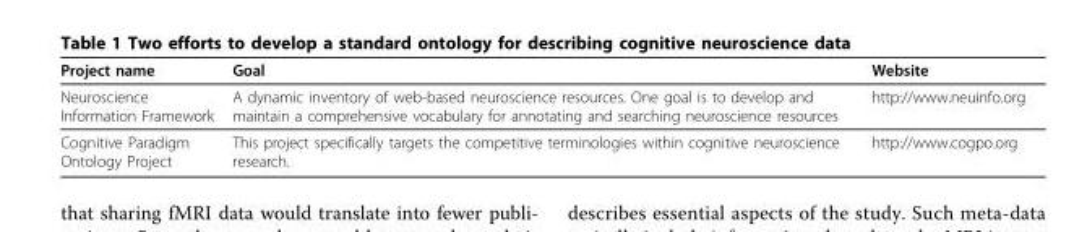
<table><thead><tr><td>Project name</td><td>Goal</td><td>Website</td></tr></thead><tbody><tr><td>Neuroscience Information Framework</td><td>A dynamic inventory of web-based neuroscience resources. One goal is to develop and maintain a comprehensive vocabulary for annotating and searching neuroscience resources</td><td>http://www.neuinfo.org</td></tr><tr><td>Cognitive Paradigm Ontology Project</td><td>This project specifically targets the competitive terminologies within cognitive neuroscience research.</td><td>http://www.cogpo.org</td></tr></tbody></table>